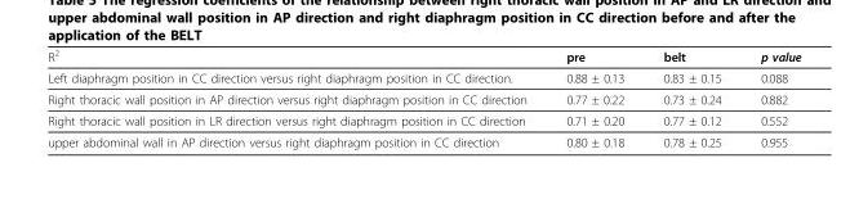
<table><thead><tr><td>R<sup>2</sup></td><td>pre</td><td>belt</td><td>p value</td></tr></thead><tbody><tr><td>Left diaphragm position in CC direction versus right diaphragm position in CC direction.</td><td>0.88 ± 0.13</td><td>0.83 ± 0.15</td><td>0.088</td></tr><tr><td>Right thoracic wall position in AP direction versus right diaphragm position in CC direction</td><td>0.77 ± 0.22</td><td>0.73 ± 0.24</td><td>0.882</td></tr><tr><td>Right thoracic wall position in LR direction versus right diaphragm position in CC direction</td><td>0.71 ± 0.20</td><td>0.77 ± 0.12</td><td>0.552</td></tr><tr><td>upper abdominal wall in AP direction versus right diaphragm position in CC direction</td><td>0.80 ± 0.18</td><td>0.78 ± 0.25</td><td>0.955</td></tr></tbody></table>